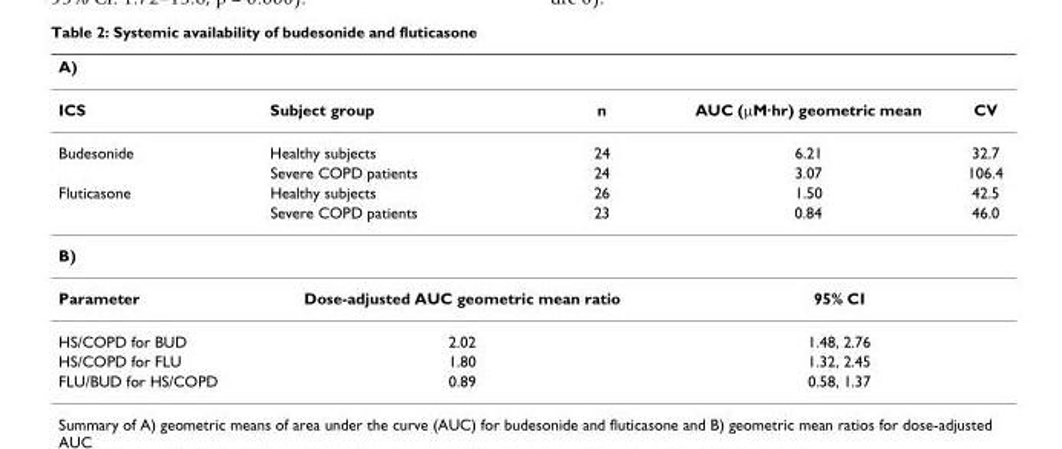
<table><thead><tr><td>A)</td><td></td><td></td><td></td><td></td></tr></thead><tbody><tr><td>ICS</td><td>Subject group</td><td>n</td><td>AUC (μM·hr) geometric mean</td><td>CV</td></tr><tr><td rowspan="2">Budesonide</td><td>Healthy subjects</td><td>24</td><td>6.21</td><td>32.7</td></tr><tr><td>Severe COPD patients</td><td>24</td><td>3.07</td><td>106.4</td></tr><tr><td rowspan="2">Fluticasone</td><td>Healthy subjects</td><td>26</td><td>1.50</td><td>42.5</td></tr><tr><td>Severe COPD patients</td><td>23</td><td>0.84</td><td>46.0</td></tr><tr><td colspan="5">B)</td></tr><tr><td>Parameter</td><td colspan="2">Dose-adjusted AUC geometric mean ratio</td><td colspan="2">95% CI</td></tr><tr><td>HS/COPD for BUD</td><td colspan="2">2.02</td><td colspan="2">1.48, 2.76</td></tr><tr><td>HS/COPD for FLU</td><td colspan="2">1.80</td><td colspan="2">1.32, 2.45</td></tr><tr><td>FLU/BUD for HS/COPD</td><td colspan="2">0.89</td><td colspan="2">0.58, 1.37</td></tr></tbody></table>